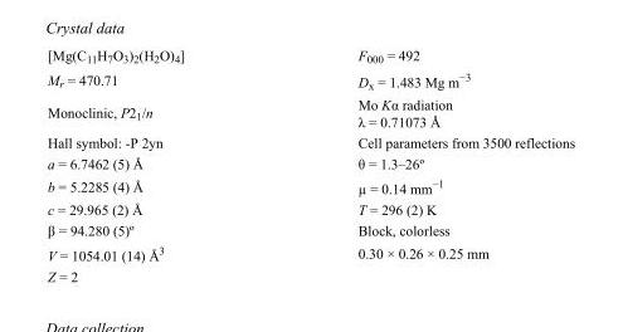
<table><tbody><tr><td>[Mg(C<sub>11</sub>H<sub>7</sub>O<sub>3</sub>)<sub>2</sub>(H<sub>2</sub>O)<sub>4</sub>]</td><td>F<sub>000</sub> = 492</td></tr><tr><td>M<sub>r</sub> = 470.71</td><td>D<sub>x</sub> = 1.483 Mg m<sup>−3</sup></td></tr><tr><td>Monoclinic, P2<sub>1</sub>/n</td><td>Mo Kα radiation λ = 0.71073 Å</td></tr><tr><td>Hall symbol: -P 2yn</td><td>Cell parameters from 3500 reflections</td></tr><tr><td>a = 6.7462 (5) Å</td><td>θ = 1.3–26º</td></tr><tr><td>b = 5.2285 (4) Å</td><td>µ = 0.14 mm<sup>−1</sup></td></tr><tr><td>c = 29.965 (2) Å</td><td>T = 296 (2) K</td></tr><tr><td>β = 94.280 (5)º</td><td>Block, colorless</td></tr><tr><td>V = 1054.01 (14) Å<sup>3</sup></td><td>0.30 × 0.26 × 0.25 mm</td></tr><tr><td>Z = 2</td><td></td></tr></tbody></table>